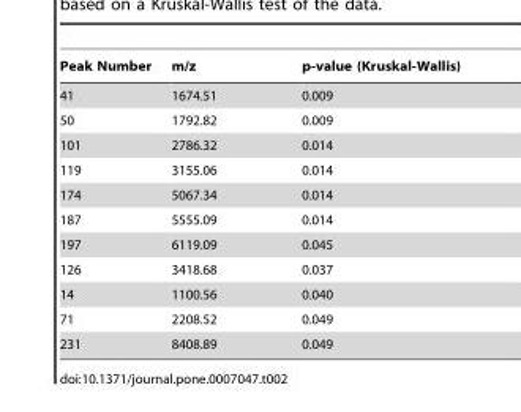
<table><thead><tr><td>Peak Number</td><td>m/z</td><td>p-value (Kruskal-Wallis)</td></tr></thead><tbody><tr><td>41</td><td>1674.51</td><td>0.009</td></tr><tr><td>50</td><td>1792.82</td><td>0.009</td></tr><tr><td>101</td><td>2786.32</td><td>0.014</td></tr><tr><td>119</td><td>3155.06</td><td>0.014</td></tr><tr><td>174</td><td>5067.34</td><td>0.014</td></tr><tr><td>187</td><td>5555.09</td><td>0.014</td></tr><tr><td>197</td><td>6119.09</td><td>0.045</td></tr><tr><td>126</td><td>3418.68</td><td>0.037</td></tr><tr><td>14</td><td>1100.56</td><td>0.040</td></tr><tr><td>71</td><td>2208.52</td><td>0.049</td></tr><tr><td>231</td><td>8408.89</td><td>0.049</td></tr></tbody></table>